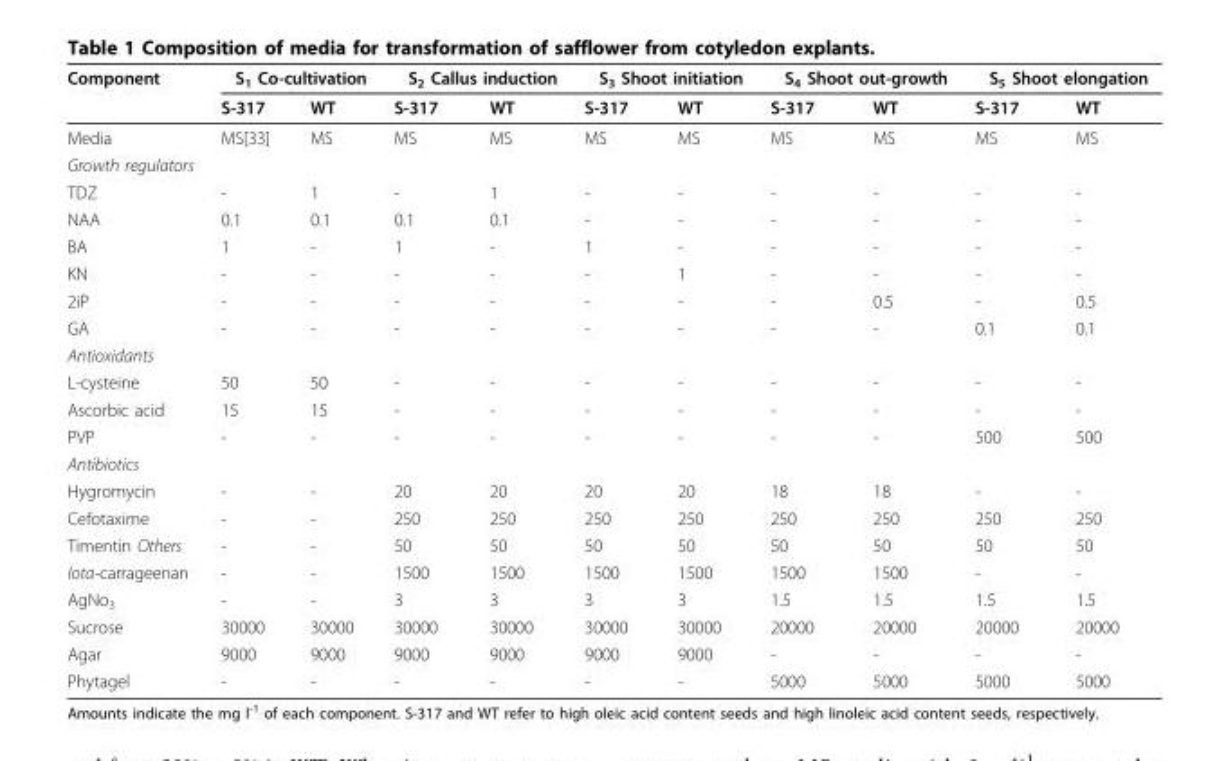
<table><thead><tr><td rowspan="2">Component</td><td colspan="2">S<sub>1</sub> Co-cultivation</td><td colspan="2">S<sub>2</sub> Callus induction</td><td colspan="2">S<sub>3</sub> Shoot initiation</td><td colspan="2">S<sub>4</sub> Shoot out-growth</td><td colspan="2">S<sub>5</sub> Shoot elongation</td></tr><tr><td>S-317</td><td>WT</td><td>S-317</td><td>WT</td><td>S-317</td><td>WT</td><td>S-317</td><td>WT</td><td>S-317</td><td>WT</td></tr></thead><tbody><tr><td>Media</td><td>MS[33]</td><td>MS</td><td>MS</td><td>MS</td><td>MS</td><td>MS</td><td>MS</td><td>MS</td><td>MS</td><td>MS</td></tr><tr><td colspan="11">Growth regulators</td></tr><tr><td>TDZ</td><td>-</td><td>1</td><td>-</td><td>1</td><td>-</td><td>-</td><td>-</td><td>-</td><td>-</td><td>-</td></tr><tr><td>NAA</td><td>0.1</td><td>0.1</td><td>0.1</td><td>0.1</td><td>-</td><td>-</td><td>-</td><td>-</td><td>-</td><td>-</td></tr><tr><td>BA</td><td>1</td><td>-</td><td>1</td><td>-</td><td>1</td><td>-</td><td>-</td><td>-</td><td>-</td><td>-</td></tr><tr><td>KN</td><td>-</td><td>-</td><td>-</td><td>-</td><td>-</td><td>1</td><td>-</td><td>-</td><td>-</td><td>-</td></tr><tr><td>2iP</td><td>-</td><td>-</td><td>-</td><td>-</td><td>-</td><td>-</td><td>-</td><td>0.5</td><td>-</td><td>0.5</td></tr><tr><td>GA</td><td>-</td><td>-</td><td>-</td><td>-</td><td>-</td><td>-</td><td>-</td><td>-</td><td>0.1</td><td>0.1</td></tr><tr><td colspan="11">Antioxidants</td></tr><tr><td>L-cysteine</td><td>50</td><td>50</td><td>-</td><td>-</td><td>-</td><td>-</td><td>-</td><td>-</td><td>-</td><td>-</td></tr><tr><td>Ascorbic acid</td><td>15</td><td>15</td><td>-</td><td>-</td><td>-</td><td>-</td><td>-</td><td>-</td><td>-</td><td>-</td></tr><tr><td>PVP</td><td>-</td><td>-</td><td>-</td><td>-</td><td>-</td><td>-</td><td>-</td><td>-</td><td>500</td><td>500</td></tr><tr><td colspan="11">Antibiotics</td></tr><tr><td>Hygromycin</td><td>-</td><td>-</td><td>20</td><td>20</td><td>20</td><td>20</td><td>18</td><td>18</td><td>-</td><td>-</td></tr><tr><td>Cefotaxime</td><td>-</td><td>-</td><td>250</td><td>250</td><td>250</td><td>250</td><td>250</td><td>250</td><td>250</td><td>250</td></tr><tr><td>Timentin Others</td><td>-</td><td>-</td><td>50</td><td>50</td><td>50</td><td>50</td><td>50</td><td>50</td><td>50</td><td>50</td></tr><tr><td>Iota-carrageenan</td><td>-</td><td>-</td><td>1500</td><td>1500</td><td>1500</td><td>1500</td><td>1500</td><td>1500</td><td>-</td><td>-</td></tr><tr><td>AgNo<sub>3</sub></td><td>-</td><td>-</td><td>3</td><td>3</td><td>3</td><td>3</td><td>1.5</td><td>1.5</td><td>1.5</td><td>1.5</td></tr><tr><td>Sucrose</td><td>30000</td><td>30000</td><td>30000</td><td>30000</td><td>30000</td><td>30000</td><td>20000</td><td>20000</td><td>20000</td><td>20000</td></tr><tr><td>Agar</td><td>9000</td><td>9000</td><td>9000</td><td>9000</td><td>9000</td><td>9000</td><td>-</td><td>-</td><td>-</td><td>-</td></tr><tr><td>Phytagel</td><td>-</td><td>-</td><td>-</td><td>-</td><td>-</td><td>-</td><td>5000</td><td>5000</td><td>5000</td><td>5000</td></tr></tbody></table>